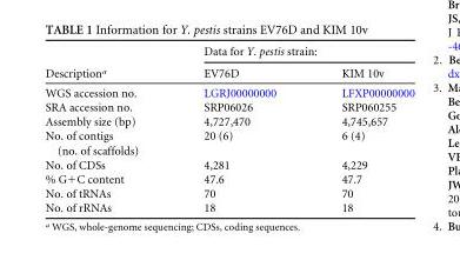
<table><thead><tr><td rowspan="2">Description<sup>a</sup></td><td colspan="2">Data for Y. pestis strain:</td></tr><tr><td>EV76D</td><td>KIM 10v</td></tr></thead><tbody><tr><td>WGS accession no.</td><td>LGRJ00000000</td><td>LFXP00000000</td></tr><tr><td>SRA accession no.</td><td>SRP06026</td><td>SRP060255</td></tr><tr><td>Assembly size (bp)</td><td>4,727,470</td><td>4,745,657</td></tr><tr><td>No. of contigs (no. of scaffolds)</td><td>20 (6)</td><td>6 (4)</td></tr><tr><td>No. of CDSs</td><td>4,281</td><td>4,229</td></tr><tr><td>% G+C content</td><td>47.6</td><td>47.7</td></tr><tr><td>No. of tRNAs</td><td>70</td><td>70</td></tr><tr><td>No. of rRNAs</td><td>18</td><td>18</td></tr></tbody></table>